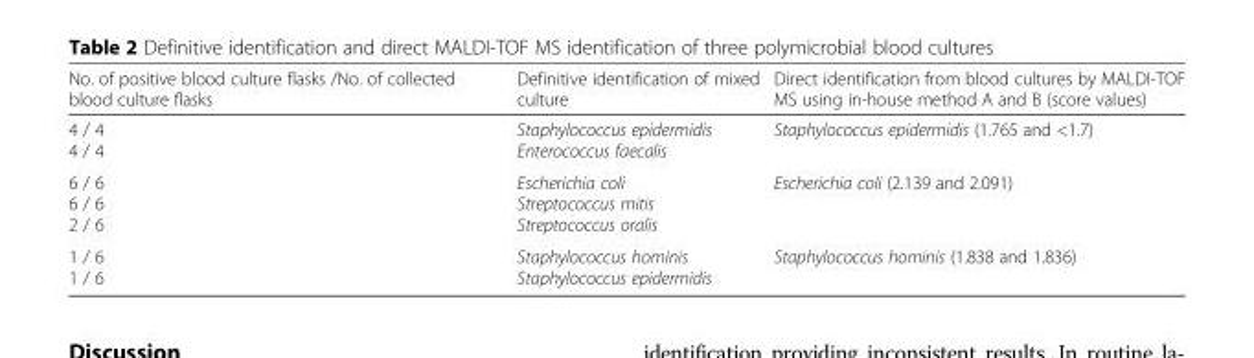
<table><thead><tr><td>No. of positive blood culture flasks /No. of collected blood culture flasks</td><td>Definitive identification of mixed culture</td><td>Direct identification from blood cultures by MALDI-TOF MS using in-house method A and B (score values)</td></tr></thead><tbody><tr><td>4 / 4 4 / 4</td><td>Staphylococcus epidermidis Enterococcus faecalis</td><td>Staphylococcus epidermidis (1.765 and &lt;1.7)</td></tr><tr><td>6 / 6 6 / 6 2 / 6</td><td>Escherichia coli Streptococcus mitis Streptococcus oralis</td><td>Escherichia coli (2.139 and 2.091)</td></tr><tr><td>1 / 6 1 / 6</td><td>Staphylococcus hominis Staphylococcus epidermidis</td><td>Staphylococcus hominis (1.838 and 1.836)</td></tr></tbody></table>